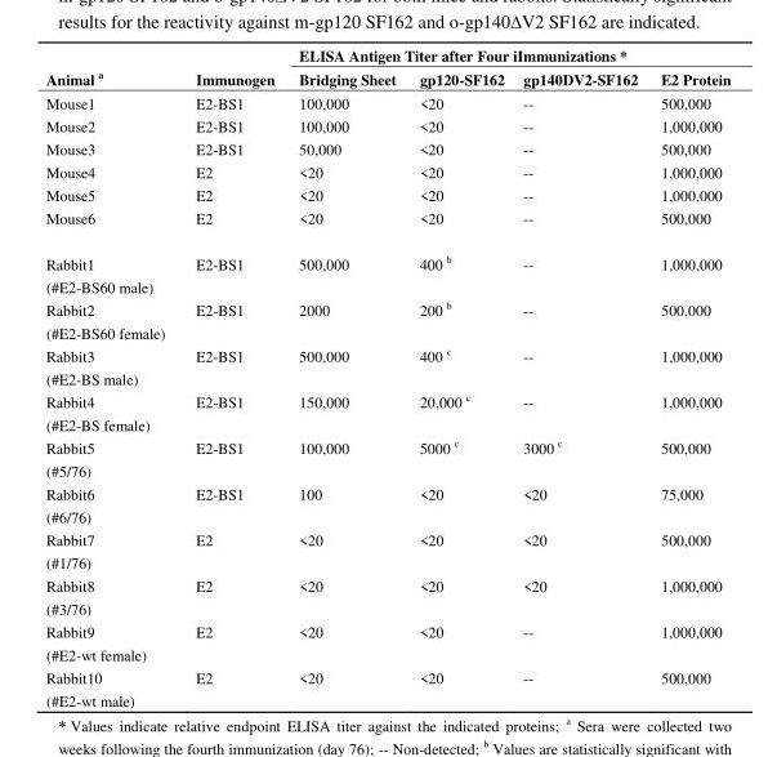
<table><thead><tr><td rowspan="2">Animal a</td><td rowspan="2">Immunogen</td><td colspan="4">ELISA Antigen Titer after Four iImmunizations *</td></tr><tr><td>Bridging Sheet</td><td>gp120-SF162</td><td>gp140DV2-SF162</td><td>E2 Protein</td></tr></thead><tbody><tr><td>Mouse1</td><td>E2-BS1</td><td>100,000</td><td>&lt;20</td><td>--</td><td>500,000</td></tr><tr><td>Mouse2</td><td>E2-BS1</td><td>100,000</td><td>&lt;20</td><td>--</td><td>1,000,000</td></tr><tr><td>Mouse3</td><td>E2-BS1</td><td>50,000</td><td>&lt;20</td><td>--</td><td>500,000</td></tr><tr><td>Mouse4</td><td>E2</td><td>&lt;20</td><td>&lt;20</td><td>--</td><td>1,000,000</td></tr><tr><td>Mouse5</td><td>E2</td><td>&lt;20</td><td>&lt;20</td><td>--</td><td>1,000,000</td></tr><tr><td>Mouse6</td><td>E2</td><td>&lt;20</td><td>&lt;20</td><td>--</td><td>500,000</td></tr><tr><td>Rabbit1 (#E2-BS60 male)</td><td>E2-BS1</td><td>500,000</td><td>400 b</td><td>--</td><td>1,000,000</td></tr><tr><td>Rabbit2 (#E2-BS60 female)</td><td>E2-BS1</td><td>2000</td><td>200 b</td><td>--</td><td>500,000</td></tr><tr><td>Rabbit3 (#E2-BS male)</td><td>E2-BS1</td><td>500,000</td><td>400 c</td><td>--</td><td>1,000,000</td></tr><tr><td>Rabbit4 (#E2-BS female)</td><td>E2-BS1</td><td>150,000</td><td>20,000 c</td><td>--</td><td>1,000,000</td></tr><tr><td>Rabbit5 (#5/76)</td><td>E2-BS1</td><td>100,000</td><td>5000 c</td><td>3000 c</td><td>500,000</td></tr><tr><td>Rabbit6 (#6/76)</td><td>E2-BS1</td><td>100</td><td>&lt;20</td><td>&lt;20</td><td>75,000</td></tr><tr><td>Rabbit7 (#1/76)</td><td>E2</td><td>&lt;20</td><td>&lt;20</td><td>&lt;20</td><td>500,000</td></tr><tr><td>Rabbit8 (#3/76)</td><td>E2</td><td>&lt;20</td><td>&lt;20</td><td>&lt;20</td><td>1,000,000</td></tr><tr><td>Rabbit9 (#E2-wt female)</td><td>E2</td><td>&lt;20</td><td>&lt;20</td><td>--</td><td>1,000,000</td></tr><tr><td>Rabbit10 (#E2-wt male)</td><td>E2</td><td>&lt;20</td><td>&lt;20</td><td>--</td><td>500,000</td></tr></tbody></table>